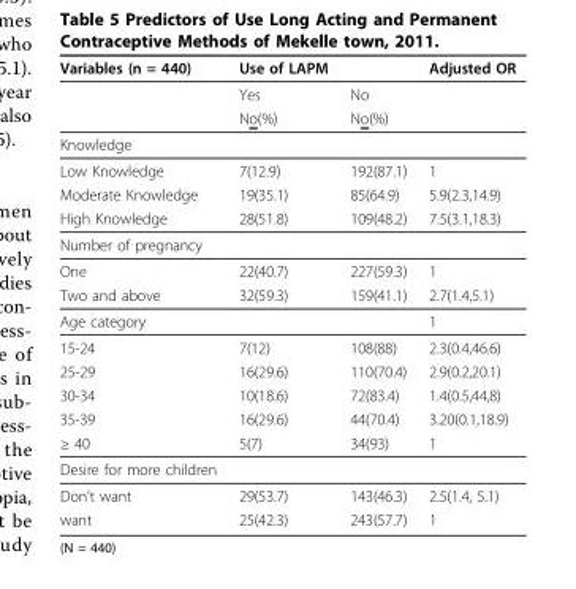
<table><thead><tr><td>Variables (n = 440)</td><td>Use of LAPM</td><td></td><td>Adjusted OR</td></tr></thead><tbody><tr><td></td><td>Yes</td><td>No</td><td></td></tr><tr><td></td><td>No(%)</td><td>No(%)</td><td></td></tr><tr><td colspan="4">Knowledge</td></tr><tr><td>Low Knowledge</td><td>7(12.9)</td><td>192(87.1)</td><td>1</td></tr><tr><td>Moderate Knowledge</td><td>19(35.1)</td><td>85(64.9)</td><td>5.9(2.3,14.9)</td></tr><tr><td>High Knowledge</td><td>28(51.8)</td><td>109(48.2)</td><td>7.5(3.1,18.3)</td></tr><tr><td colspan="4">Number of pregnancy</td></tr><tr><td>One</td><td>22(40.7)</td><td>227(59.3)</td><td>1</td></tr><tr><td>Two and above</td><td>32(59.3)</td><td>159(41.1)</td><td>2.7(1.4,5.1)</td></tr><tr><td>Age category</td><td></td><td></td><td>1</td></tr><tr><td>15-24</td><td>7(12)</td><td>108(88)</td><td>2.3(0.4,46.6)</td></tr><tr><td>25-29</td><td>16(29.6)</td><td>110(70.4)</td><td>2.9(0.2,20.1)</td></tr><tr><td>30-34</td><td>10(18.6)</td><td>72(83.4)</td><td>1.4(0.5,44,8)</td></tr><tr><td>35-39</td><td>16(29.6)</td><td>44(70.4)</td><td>3.20(0.1,18.9)</td></tr><tr><td>≥ 40</td><td>5(7)</td><td>34(93)</td><td>1</td></tr><tr><td colspan="4">Desire for more children</td></tr><tr><td>Don’t want</td><td>29(53.7)</td><td>143(46.3)</td><td>2.5(1.4, 5.1)</td></tr><tr><td>want</td><td>25(42.3)</td><td>243(57.7)</td><td>1</td></tr></tbody></table>